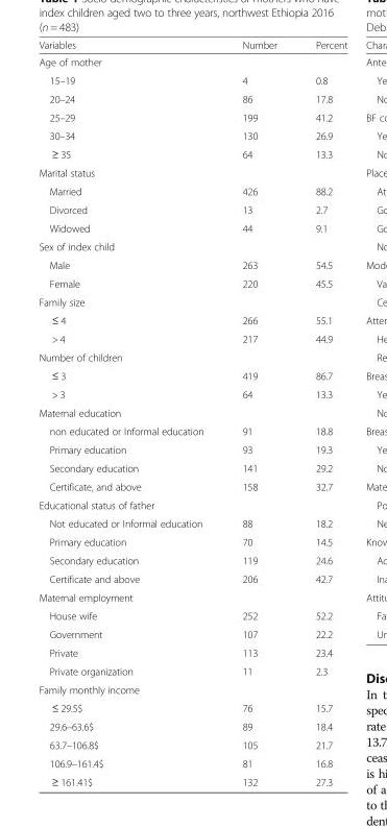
<table><thead><tr><td>Variables</td><td>Number</td><td>Percent</td></tr></thead><tbody><tr><td colspan="3">Age of mother</td></tr><tr><td>15–19</td><td>4</td><td>0.8</td></tr><tr><td>20–24</td><td>86</td><td>17.8</td></tr><tr><td>25–29</td><td>199</td><td>41.2</td></tr><tr><td>30–34</td><td>130</td><td>26.9</td></tr><tr><td>≥ 35</td><td>64</td><td>13.3</td></tr><tr><td colspan="3">Marital status</td></tr><tr><td>Married</td><td>426</td><td>88.2</td></tr><tr><td>Divorced</td><td>13</td><td>2.7</td></tr><tr><td>Widowed</td><td>44</td><td>9.1</td></tr><tr><td colspan="3">Sex of index child</td></tr><tr><td>Male</td><td>263</td><td>54.5</td></tr><tr><td>Female</td><td>220</td><td>45.5</td></tr><tr><td colspan="3">Family size</td></tr><tr><td>≤ 4</td><td>266</td><td>55.1</td></tr><tr><td>&gt; 4</td><td>217</td><td>44.9</td></tr><tr><td colspan="3">Number of children</td></tr><tr><td>≤ 3</td><td>419</td><td>86.7</td></tr><tr><td>&gt; 3</td><td>64</td><td>13.3</td></tr><tr><td colspan="3">Maternal education</td></tr><tr><td>non educated or Informal education</td><td>91</td><td>18.8</td></tr><tr><td>Primary education</td><td>93</td><td>19.3</td></tr><tr><td>Secondary education</td><td>141</td><td>29.2</td></tr><tr><td>Certificate, and above</td><td>158</td><td>32.7</td></tr><tr><td colspan="3">Educational status of father</td></tr><tr><td>Not educated or Informal education</td><td>88</td><td>18.2</td></tr><tr><td>Primary education</td><td>70</td><td>14.5</td></tr><tr><td>Secondary education</td><td>119</td><td>24.6</td></tr><tr><td>Certificate and above</td><td>206</td><td>42.7</td></tr><tr><td colspan="3">Maternal employment</td></tr><tr><td>House wife</td><td>252</td><td>52.2</td></tr><tr><td>Government</td><td>107</td><td>22.2</td></tr><tr><td>Private</td><td>113</td><td>23.4</td></tr><tr><td>Private organization</td><td>11</td><td>2.3</td></tr><tr><td colspan="3">Family monthly income</td></tr><tr><td>≤ 29.5$</td><td>76</td><td>15.7</td></tr><tr><td>29.6–63.6$</td><td>89</td><td>18.4</td></tr><tr><td>63.7–106.8$</td><td>105</td><td>21.7</td></tr><tr><td>106.9–161.4$</td><td>81</td><td>16.8</td></tr><tr><td>≥ 161.41$</td><td>132</td><td>27.3</td></tr></tbody></table>